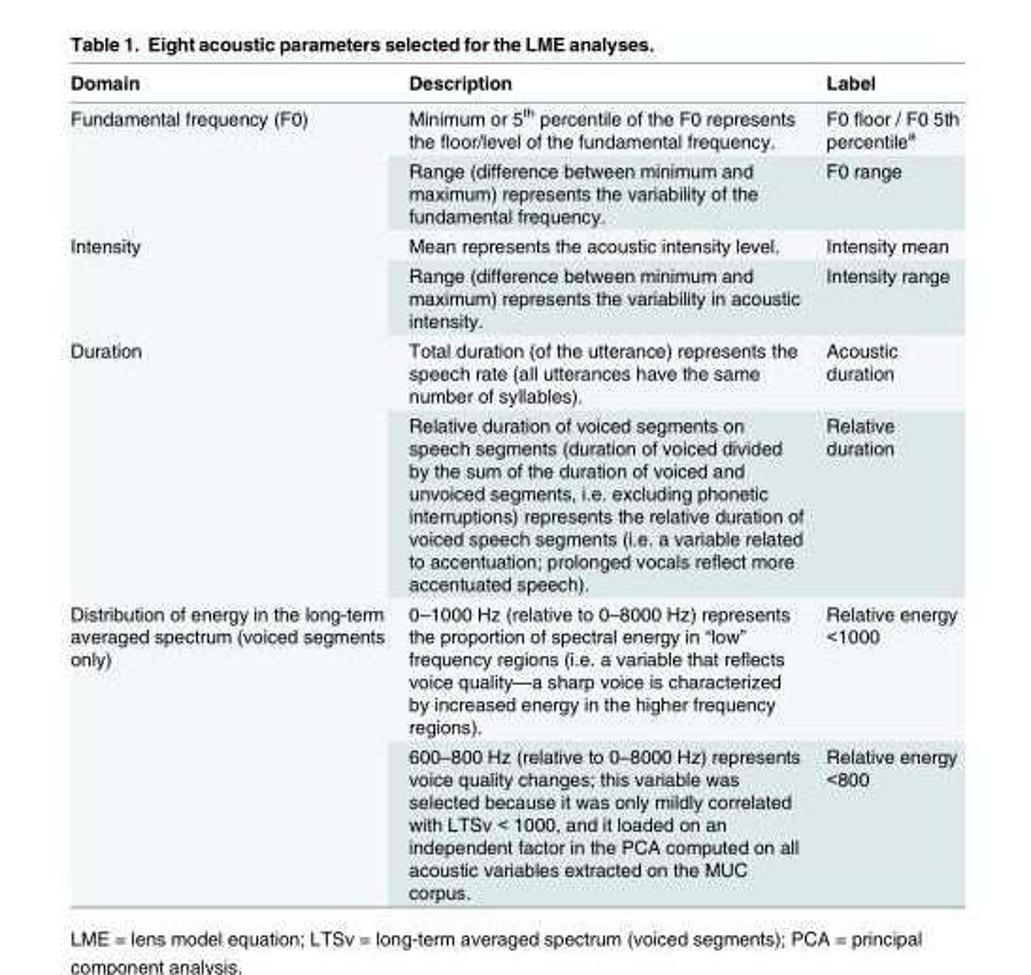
<table><thead><tr><td>Domain</td><td>Description</td><td>Label</td></tr></thead><tbody><tr><td rowspan="2">Fundamental frequency (F0)</td><td>Minimum or 5<sup>th</sup> percentile of the F0 represents the floor/level of the fundamental frequency.</td><td>F0 floor / F0 5th percentile<sup>a</sup></td></tr><tr><td>Range (difference between minimum and maximum) represents the variability of the fundamental frequency.</td><td>F0 range</td></tr><tr><td rowspan="2">Intensity</td><td>Mean represents the acoustic intensity level.</td><td>Intensity mean</td></tr><tr><td>Range (difference between minimum and maximum) represents the variability in acoustic intensity.</td><td>Intensity range</td></tr><tr><td rowspan="2">Duration</td><td>Total duration (of the utterance) represents the speech rate (all utterances have the same number of syllables).</td><td>Acoustic duration</td></tr><tr><td>Relative duration of voiced segments on speech segments (duration of voiced divided by the sum of the duration of voiced and unvoiced segments, i.e. excluding phonetic interruptions) represents the relative duration of voiced speech segments (i.e. a variable related to accentuation; prolonged vocals reflect more accentuated speech).</td><td>Relative duration</td></tr><tr><td rowspan="2">Distribution of energy in the long-term averaged spectrum (voiced segments only)</td><td>0–1000 Hz (relative to 0–8000 Hz) represents the proportion of spectral energy in “low” frequency regions (i.e. a variable that reflects voice quality—a sharp voice is characterized by increased energy in the higher frequency regions).</td><td>Relative energy &lt;1000</td></tr><tr><td>600–800 Hz (relative to 0–8000 Hz) represents voice quality changes; this variable was selected because it was only mildly correlated with LTSv &lt; 1000, and it loaded on an independent factor in the PCA computed on all acoustic variables extracted on the MUC corpus.</td><td>Relative energy &lt;800</td></tr></tbody></table>